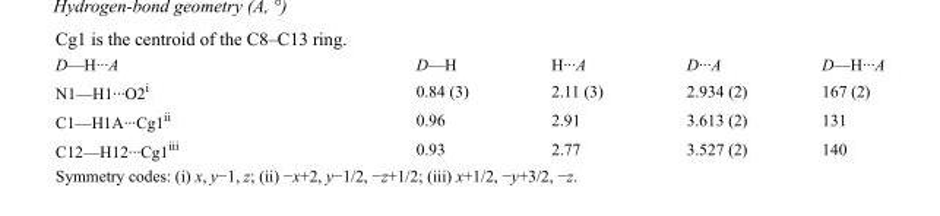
<table><tbody><tr><td>D—H···A</td><td>D—H</td><td>H···A</td><td>D···A</td><td>D—H···A</td></tr><tr><td>N1—H1···O2<sup>i</sup></td><td>0.84 (3)</td><td>2.11 (3)</td><td>2.934 (2)</td><td>167 (2)</td></tr><tr><td>C1—H1A···Cg1<sup>ii</sup></td><td>0.96</td><td>2.91</td><td>3.613 (2)</td><td>131</td></tr><tr><td>C12—H12···Cg1<sup>iii</sup></td><td>0.93</td><td>2.77</td><td>3.527 (2)</td><td>140</td></tr></tbody></table>